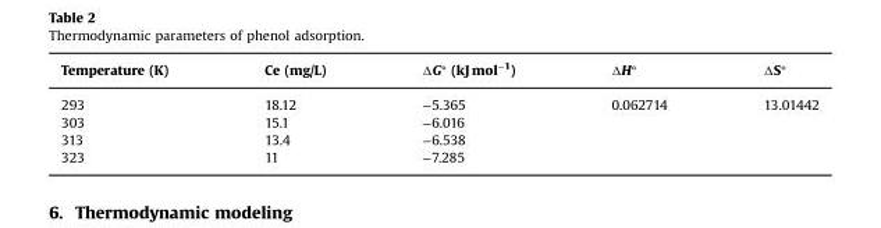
<table><thead><tr><td>Temperature (K)</td><td>Ce (mg/L)</td><td>ΔG° (kJ mol−1)</td><td>ΔH°</td><td>ΔS°</td></tr></thead><tbody><tr><td>293</td><td>18.12</td><td>−5.365</td><td rowspan="4">0.062714</td><td rowspan="4">13.01442</td></tr><tr><td>303</td><td>15.1</td><td>−6.016</td></tr><tr><td>313</td><td>13.4</td><td>−6.538</td></tr><tr><td>323</td><td>11</td><td>−7.285</td></tr></tbody></table>